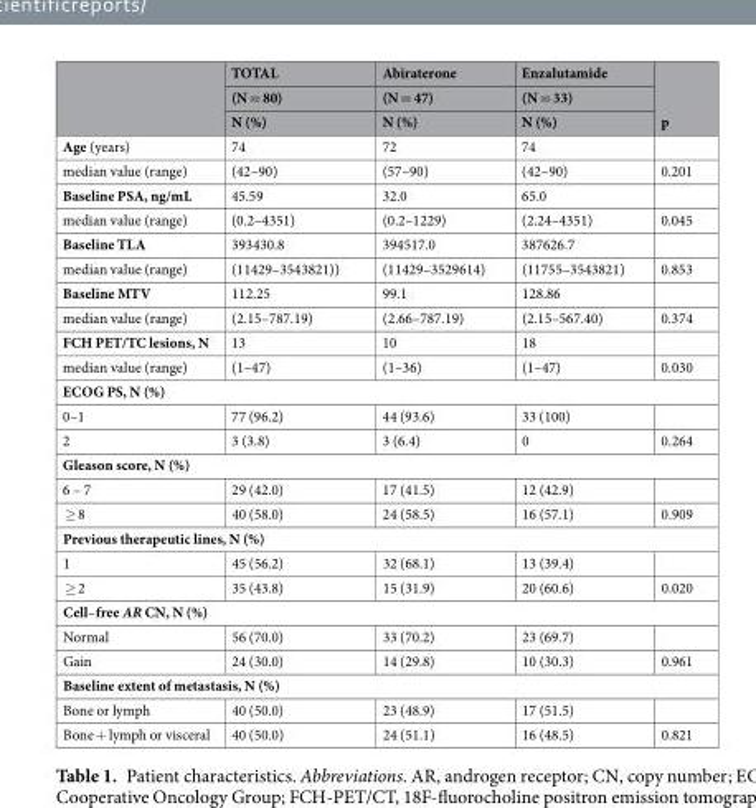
<table><thead><tr><td rowspan="3"></td><td rowspan="3">TOTAL (N = 80) N (%)</td><td rowspan="3">Abiraterone (N = 47) N (%)</td><td rowspan="3">Enzalutamide (N = 33) N (%)</td><td rowspan="3">p</td></tr><tr></tr><tr></tr></thead><tbody><tr><td>Age (years)</td><td>74</td><td>72</td><td>74</td><td></td></tr><tr><td>median value (range)</td><td>(42–90)</td><td>(57–90)</td><td>(42–90)</td><td>0.201</td></tr><tr><td>Baseline PSA, ng/mL</td><td>45.59</td><td>32.0</td><td>65.0</td><td></td></tr><tr><td>median value (range)</td><td>(0.2–4351)</td><td>(0.2–1229)</td><td>(2.24–4351)</td><td>0.045</td></tr><tr><td>Baseline TLA</td><td>393430.8</td><td>394517.0</td><td>387626.7</td><td></td></tr><tr><td>median value (range)</td><td>(11429–3543821))</td><td>(11429–3529614)</td><td>(11755–3543821)</td><td>0.853</td></tr><tr><td>Baseline MTV</td><td>112.25</td><td>99.1</td><td>128.86</td><td></td></tr><tr><td>median value (range)</td><td>(2.15–787.19)</td><td>(2.66–787.19)</td><td>(2.15–567.40)</td><td>0.374</td></tr><tr><td>FCH PET/TC lesions, N</td><td>13</td><td>10</td><td>18</td><td></td></tr><tr><td>median value (range)</td><td>(1–47)</td><td>(1–36)</td><td>(1–47)</td><td>0.030</td></tr><tr><td colspan="5">ECOG PS, N (%)</td></tr><tr><td>0–1</td><td>77 (96.2)</td><td>44 (93.6)</td><td>33 (100)</td><td></td></tr><tr><td>2</td><td>3 (3.8)</td><td>3 (6.4)</td><td>0</td><td>0.264</td></tr><tr><td colspan="5">Gleason score, N (%)</td></tr><tr><td>6 – 7</td><td>29 (42.0)</td><td>17 (41.5)</td><td>12 (42.9)</td><td></td></tr><tr><td>≥ 8</td><td>40 (58.0)</td><td>24 (58.5)</td><td>16 (57.1)</td><td>0.909</td></tr><tr><td colspan="5">Previous therapeutic lines, N (%)</td></tr><tr><td>1</td><td>45 (56.2)</td><td>32 (68.1)</td><td>13 (39.4)</td><td></td></tr><tr><td>≥ 2</td><td>35 (43.8)</td><td>15 (31.9)</td><td>20 (60.6)</td><td>0.020</td></tr><tr><td colspan="5">Cell–free AR CN, N (%)</td></tr><tr><td>Normal</td><td>56 (70.0)</td><td>33 (70.2)</td><td>23 (69.7)</td><td></td></tr><tr><td>Gain</td><td>24 (30.0)</td><td>14 (29.8)</td><td>10 (30.3)</td><td>0.961</td></tr><tr><td colspan="5">Baseline extent of metastasis, N (%)</td></tr><tr><td>Bone or lymph</td><td>40 (50.0)</td><td>23 (48.9)</td><td>17 (51.5)</td><td></td></tr><tr><td>Bone + lymph or visceral</td><td>40 (50.0)</td><td>24 (51.1)</td><td>16 (48.5)</td><td>0.821</td></tr></tbody></table>